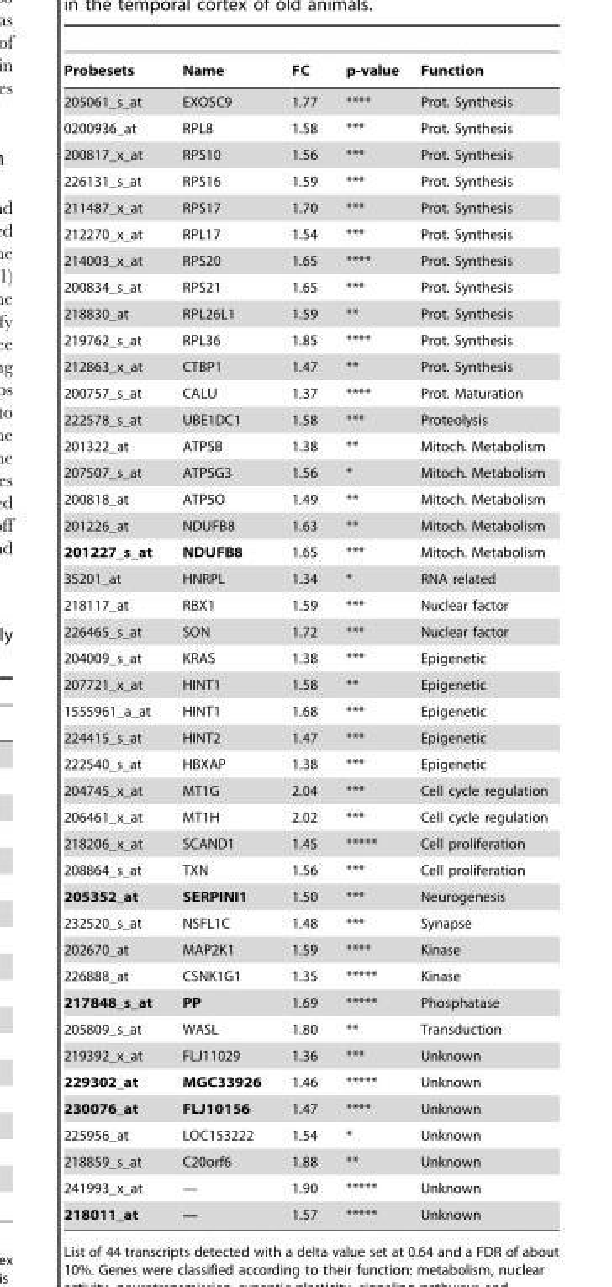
<table><thead><tr><td>Probesets</td><td>Name</td><td>FC</td><td>p-value</td><td>Function</td></tr></thead><tbody><tr><td>205061_s_at</td><td>EXOSC9</td><td>1.77</td><td>****</td><td>Prot. Synthesis</td></tr><tr><td>0200936_at</td><td>RPL8</td><td>1.58</td><td>***</td><td>Prot. Synthesis</td></tr><tr><td>200817_x_at</td><td>RPS10</td><td>1.56</td><td>***</td><td>Prot. Synthesis</td></tr><tr><td>226131_s_at</td><td>RPS16</td><td>1.59</td><td>***</td><td>Prot. Synthesis</td></tr><tr><td>211487_x_at</td><td>RPS17</td><td>1.70</td><td>***</td><td>Prot. Synthesis</td></tr><tr><td>212270_x_at</td><td>RPL17</td><td>1.54</td><td>***</td><td>Prot. Synthesis</td></tr><tr><td>214003_x_at</td><td>RPS20</td><td>1.65</td><td>****</td><td>Prot. Synthesis</td></tr><tr><td>200834_s_at</td><td>RPS21</td><td>1.65</td><td>***</td><td>Prot. Synthesis</td></tr><tr><td>218830_at</td><td>RPL26L1</td><td>1.59</td><td>**</td><td>Prot. Synthesis</td></tr><tr><td>219762_s_at</td><td>RPL36</td><td>1.85</td><td>****</td><td>Prot. Synthesis</td></tr><tr><td>212863_x_at</td><td>CTBP1</td><td>1.47</td><td>**</td><td>Prot. Synthesis</td></tr><tr><td>200757_s_at</td><td>CALU</td><td>1.37</td><td>****</td><td>Prot. Maturation</td></tr><tr><td>222578_s_at</td><td>UBE1DC1</td><td>1.58</td><td>***</td><td>Proteolysis</td></tr><tr><td>201322_at</td><td>ATP5B</td><td>1.38</td><td>**</td><td>Mitoch. Metabolism</td></tr><tr><td>207507_s_at</td><td>ATP5G3</td><td>1.56</td><td>*</td><td>Mitoch. Metabolism</td></tr><tr><td>200818_at</td><td>ATP5O</td><td>1.49</td><td>**</td><td>Mitoch. Metabolism</td></tr><tr><td>201226_at</td><td>NDUFB8</td><td>1.63</td><td>**</td><td>Mitoch. Metabolism</td></tr><tr><td>201227_s_at</td><td>NDUFB8</td><td>1.65</td><td>***</td><td>Mitoch. Metabolism</td></tr><tr><td>35201_at</td><td>HNRPL</td><td>1.34</td><td>*</td><td>RNA related</td></tr><tr><td>218117_at</td><td>RBX1</td><td>1.59</td><td>***</td><td>Nuclear factor</td></tr><tr><td>226465_s_at</td><td>SON</td><td>1.72</td><td>***</td><td>Nuclear factor</td></tr><tr><td>204009_s_at</td><td>KRAS</td><td>1.38</td><td>***</td><td>Epigenetic</td></tr><tr><td>207721_x_at</td><td>HINT1</td><td>1.58</td><td>**</td><td>Epigenetic</td></tr><tr><td>1555961_a_at</td><td>HINT1</td><td>1.68</td><td>***</td><td>Epigenetic</td></tr><tr><td>224415_s_at</td><td>HINT2</td><td>1.47</td><td>***</td><td>Epigenetic</td></tr><tr><td>222540_s_at</td><td>HBXAP</td><td>1.38</td><td>***</td><td>Epigenetic</td></tr><tr><td>204745_x_at</td><td>MT1G</td><td>2.04</td><td>***</td><td>Cell cycle regulation</td></tr><tr><td>206461_x_at</td><td>MT1H</td><td>2.02</td><td>***</td><td>Cell cycle regulation</td></tr><tr><td>218206_x_at</td><td>SCAND1</td><td>1.45</td><td>*****</td><td>Cell proliferation</td></tr><tr><td>208864_s_at</td><td>TXN</td><td>1.56</td><td>***</td><td>Cell proliferation</td></tr><tr><td>205352_at</td><td>SERPINI1</td><td>1.50</td><td>***</td><td>Neurogenesis</td></tr><tr><td>232520_s_at</td><td>NSFL1C</td><td>1.48</td><td>***</td><td>Synapse</td></tr><tr><td>202670_at</td><td>MAP2K1</td><td>1.59</td><td>****</td><td>Kinase</td></tr><tr><td>226888_at</td><td>CSNK1G1</td><td>1.35</td><td>*****</td><td>Kinase</td></tr><tr><td>217848_s_at</td><td>PP</td><td>1.69</td><td>*****</td><td>Phosphatase</td></tr><tr><td>205809_s_at</td><td>WASL</td><td>1.80</td><td>**</td><td>Transduction</td></tr><tr><td>219392_x_at</td><td>FLJ11029</td><td>1.36</td><td>***</td><td>Unknown</td></tr><tr><td>229302_at</td><td>MGC33926</td><td>1.46</td><td>*****</td><td>Unknown</td></tr><tr><td>230076_at</td><td>FLJ10156</td><td>1.47</td><td>****</td><td>Unknown</td></tr><tr><td>225956_at</td><td>LOC153222</td><td>1.54</td><td>*</td><td>Unknown</td></tr><tr><td>218859_s_at</td><td>C20orf6</td><td>1.88</td><td>**</td><td>Unknown</td></tr><tr><td>241993_x_at</td><td>—</td><td>1.90</td><td>*****</td><td>Unknown</td></tr><tr><td>218011_at</td><td>—</td><td>1.57</td><td>*****</td><td>Unknown</td></tr></tbody></table>